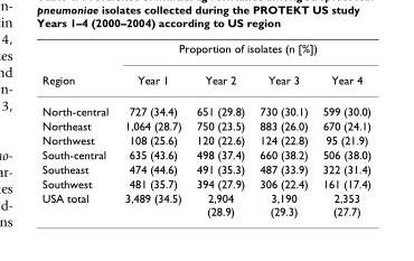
<table><thead><tr><td rowspan="2">Region</td><td colspan="4">Proportion of isolates (n [%])</td></tr><tr><td>Year 1</td><td>Year 2</td><td>Year 3</td><td>Year 4</td></tr></thead><tbody><tr><td>North-central</td><td>727 (34.4)</td><td>651 (29.8)</td><td>730 (30.1)</td><td>599 (30.0)</td></tr><tr><td>Northeast</td><td>1,064 (28.7)</td><td>750 (23.5)</td><td>883 (26.0)</td><td>670 (24.1)</td></tr><tr><td>Northwest</td><td>108 (25.6)</td><td>120 (22.6)</td><td>124 (22.8)</td><td>95 (21.9)</td></tr><tr><td>South-central</td><td>635 (43.6)</td><td>498 (37.4)</td><td>660 (38.2)</td><td>506 (38.0)</td></tr><tr><td>Southeast</td><td>474 (44.6)</td><td>491 (35.3)</td><td>487 (33.9)</td><td>322 (31.4)</td></tr><tr><td>Southwest</td><td>481 (35.7)</td><td>394 (27.9)</td><td>306 (22.4)</td><td>161 (17.4)</td></tr><tr><td>USA total</td><td>3,489 (34.5)</td><td>2,904 (28.9)</td><td>3,190 (29.3)</td><td>2,353 (27.7)</td></tr></tbody></table>